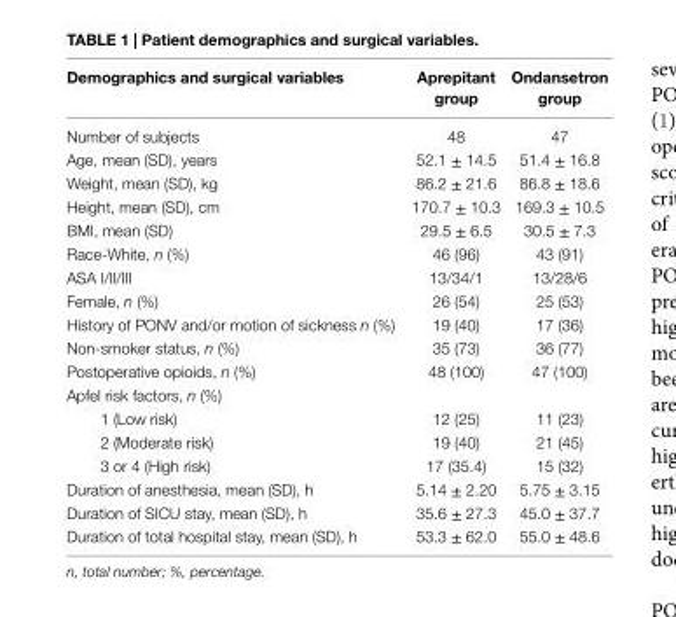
<table><thead><tr><td>Demographics and surgical variables</td><td>aprepitant group</td><td>Ondansetron group</td></tr></thead><tbody><tr><td>Number of subjects</td><td>48</td><td>47</td></tr><tr><td>Age, mean (SD), years</td><td>52.1 ± 14.5</td><td>51.4 ± 16.8</td></tr><tr><td>Weight, mean (SD), kg</td><td>86.2 ± 21.6</td><td>86.8 ± 18.6</td></tr><tr><td>Height, mean (SD), cm</td><td>170.7 ± 10.3</td><td>169.3 ± 10.5</td></tr><tr><td>BMI, mean (SD)</td><td>29.5 ± 6.5</td><td>30.5 ± 7.3</td></tr><tr><td>Race-White, n (%)</td><td>46 (96)</td><td>43 (91)</td></tr><tr><td>ASA I/II/III</td><td>13/34/1</td><td>13/28/6</td></tr><tr><td>Female, n (%)</td><td>26 (54)</td><td>25 (53)</td></tr><tr><td>History of PONV and/or motion of sickness n (%)</td><td>19 (40)</td><td>17 (36)</td></tr><tr><td>Non-smoker status, n (%)</td><td>35 (73)</td><td>36 (77)</td></tr><tr><td>Postoperative opioids, n (%)</td><td>48 (100)</td><td>47 (100)</td></tr><tr><td colspan="3">Apfel risk factors, n (%)</td></tr><tr><td>1 (Low risk)</td><td>12 (25)</td><td>11 (23)</td></tr><tr><td>2 (Moderate risk)</td><td>19 (40)</td><td>21 (45)</td></tr><tr><td>3 or 4 (High risk)</td><td>17 (35.4)</td><td>15 (32)</td></tr><tr><td>Duration of anesthesia, mean (SD), h</td><td>5.14 ± 2.20</td><td>5.75 ± 3.15</td></tr><tr><td>Duration of SICU stay, mean (SD), h</td><td>35.6 ± 27.3</td><td>45.0 ± 37.7</td></tr><tr><td>Duration of total hospital stay, mean (SD), h</td><td>53.3 ± 62.0</td><td>55.0 ± 48.6</td></tr></tbody></table>